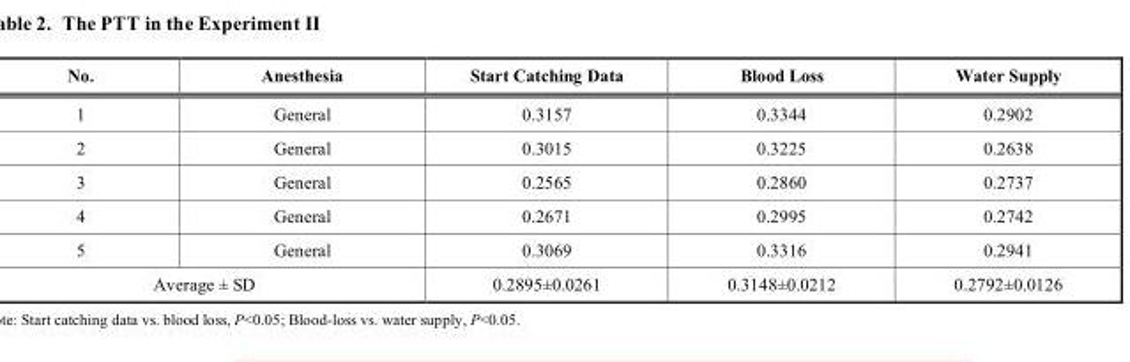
<table><thead><tr><td>No.</td><td>Anesthesia</td><td>Start Catching Data</td><td>Blood Loss</td><td>Water Supply</td></tr></thead><tbody><tr><td>1</td><td>General</td><td>0.3157</td><td>0.3344</td><td>0.2902</td></tr><tr><td>2</td><td>General</td><td>0.3015</td><td>0.3225</td><td>0.2638</td></tr><tr><td>3</td><td>General</td><td>0.2565</td><td>0.2860</td><td>0.2737</td></tr><tr><td>4</td><td>General</td><td>0.2671</td><td>0.2995</td><td>0.2742</td></tr><tr><td>5</td><td>General</td><td>0.3069</td><td>0.3316</td><td>0.2941</td></tr><tr><td colspan="2">Average ± SD</td><td>0.2895±0.0261</td><td>0.3148±0.0212</td><td>0.2792±0.0126</td></tr></tbody></table>